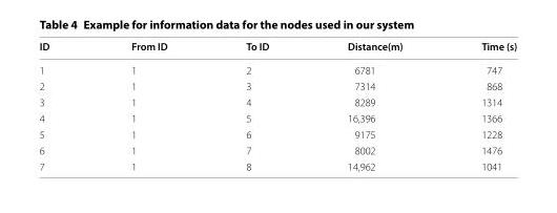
<table><thead><tr><td>ID</td><td>From ID</td><td>To ID</td><td>Distance(m)</td><td>Time (s)</td></tr></thead><tbody><tr><td>1</td><td>1</td><td>2</td><td>6781</td><td>747</td></tr><tr><td>2</td><td>1</td><td>3</td><td>7314</td><td>868</td></tr><tr><td>3</td><td>1</td><td>4</td><td>8289</td><td>1314</td></tr><tr><td>4</td><td>1</td><td>5</td><td>16,396</td><td>1366</td></tr><tr><td>5</td><td>1</td><td>6</td><td>9175</td><td>1228</td></tr><tr><td>6</td><td>1</td><td>7</td><td>8002</td><td>1476</td></tr><tr><td>7</td><td>1</td><td>8</td><td>14,962</td><td>1041</td></tr></tbody></table>